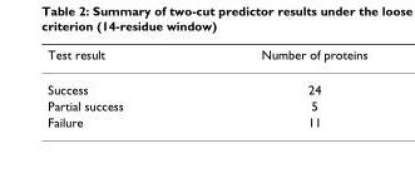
<table><thead><tr><td>Test result</td><td>Number of proteins</td></tr></thead><tbody><tr><td>Success</td><td>24</td></tr><tr><td>Partial success</td><td>5</td></tr><tr><td>Failure</td><td>11</td></tr></tbody></table>